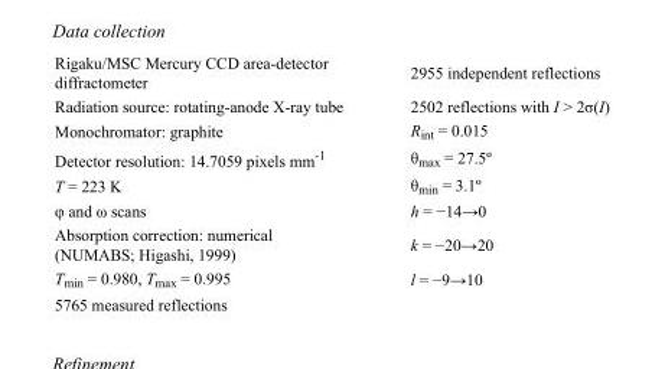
<table><tbody><tr><td>Rigaku/MSC Mercury CCD area-detector diffractometer</td><td>2955 independent reflections</td></tr><tr><td>Radiation source: rotating-anode X-ray tube</td><td>2502 reflections with I &gt; 2σ(I)</td></tr><tr><td>Monochromator: graphite</td><td>R<sub>int</sub> = 0.015</td></tr><tr><td>Detector resolution: 14.7059 pixels mm<sup>-1</sup></td><td>θ<sub>max</sub> = 27.5º</td></tr><tr><td>T = 223 K</td><td>θ<sub>min</sub> = 3.1º</td></tr><tr><td>φ and ω scans</td><td>h = −14→0</td></tr><tr><td>Absorption correction: numerical (NUMABS; Higashi, 1999)</td><td>k = −20→20</td></tr><tr><td>T<sub>min</sub> = 0.980, T<sub>max</sub> = 0.995</td><td>l = −9→10</td></tr><tr><td>5765 measured reflections</td><td></td></tr></tbody></table>